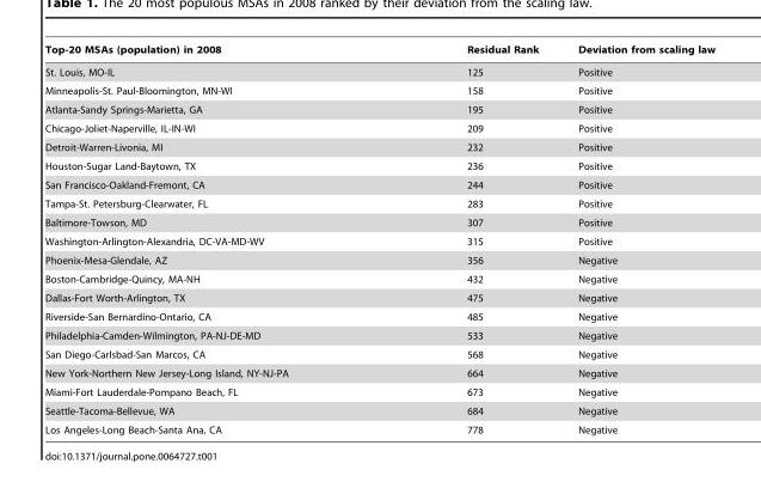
<table><thead><tr><td>Top-20 MSAs (population) in 2008</td><td>Residual Rank</td><td>Deviation from scaling law</td></tr></thead><tbody><tr><td>St. Louis, MO-IL</td><td>125</td><td>Positive</td></tr><tr><td>Minneapolis-St. Paul-Bloomington, MN-WI</td><td>158</td><td>Positive</td></tr><tr><td>Atlanta-Sandy Springs-Marietta, GA</td><td>195</td><td>Positive</td></tr><tr><td>Chicago-Joliet-Naperville, IL-IN-WI</td><td>209</td><td>Positive</td></tr><tr><td>Detroit-Warren-Livonia, MI</td><td>232</td><td>Positive</td></tr><tr><td>Houston-Sugar Land-Baytown, TX</td><td>236</td><td>Positive</td></tr><tr><td>San Francisco-Oakland-Fremont, CA</td><td>244</td><td>Positive</td></tr><tr><td>Tampa-St. Petersburg-Clearwater, FL</td><td>283</td><td>Positive</td></tr><tr><td>Baltimore-Towson, MD</td><td>307</td><td>Positive</td></tr><tr><td>Washington-Arlington-Alexandria, DC-VA-MD-WV</td><td>315</td><td>Positive</td></tr><tr><td>Phoenix-Mesa-Glendale, AZ</td><td>356</td><td>Negative</td></tr><tr><td>Boston-Cambridge-Quincy, MA-NH</td><td>432</td><td>Negative</td></tr><tr><td>Dallas-Fort Worth-Arlington, TX</td><td>475</td><td>Negative</td></tr><tr><td>Riverside-San Bernardino-Ontario, CA</td><td>485</td><td>Negative</td></tr><tr><td>Philadelphia-Camden-Wilmington, PA-NJ-DE-MD</td><td>533</td><td>Negative</td></tr><tr><td>San Diego-Carlsbad-San Marcos, CA</td><td>568</td><td>Negative</td></tr><tr><td>New York-Northern New Jersey-Long Island, NY-NJ-PA</td><td>664</td><td>Negative</td></tr><tr><td>Miami-Fort Lauderdale-Pompano Beach, FL</td><td>673</td><td>Negative</td></tr><tr><td>Seattle-Tacoma-Bellevue, WA</td><td>684</td><td>Negative</td></tr><tr><td>Los Angeles-Long Beach-Santa Ana, CA</td><td>778</td><td>Negative</td></tr></tbody></table>